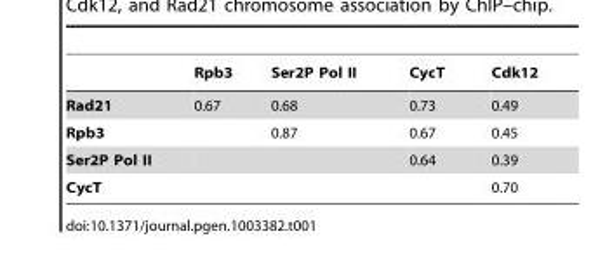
<table><thead><tr><td></td><td>Rpb3</td><td>Ser2P Pol II</td><td>CycT</td><td>Cdk12</td></tr></thead><tbody><tr><td>Rad21</td><td>0.67</td><td>0.68</td><td>0.73</td><td>0.49</td></tr><tr><td>Rpb3</td><td></td><td>0.87</td><td>0.67</td><td>0.45</td></tr><tr><td>Ser2P Pol II</td><td></td><td></td><td>0.64</td><td>0.39</td></tr><tr><td>CycT</td><td></td><td></td><td></td><td>0.70</td></tr></tbody></table>